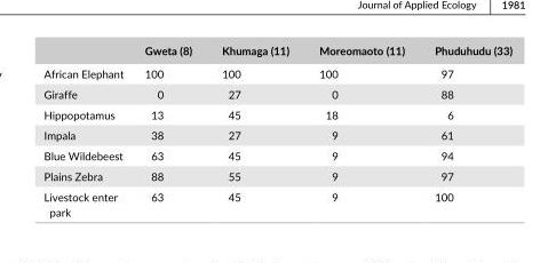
<table><thead><tr><td></td><td>Gweta (8)</td><td>Khumaga (11)</td><td>Moreomaoto (11)</td><td>Phuduhudu (33)</td></tr></thead><tbody><tr><td>African Elephant</td><td>100</td><td>100</td><td>100</td><td>97</td></tr><tr><td>Giraffe</td><td>0</td><td>27</td><td>0</td><td>88</td></tr><tr><td>Hippopotamus</td><td>13</td><td>45</td><td>18</td><td>6</td></tr><tr><td>Impala</td><td>38</td><td>27</td><td>9</td><td>61</td></tr><tr><td>Blue Wildebeest</td><td>63</td><td>45</td><td>9</td><td>94</td></tr><tr><td>Plains Zebra</td><td>88</td><td>55</td><td>9</td><td>97</td></tr><tr><td>Livestock enter park</td><td>63</td><td>45</td><td>9</td><td>100</td></tr></tbody></table>